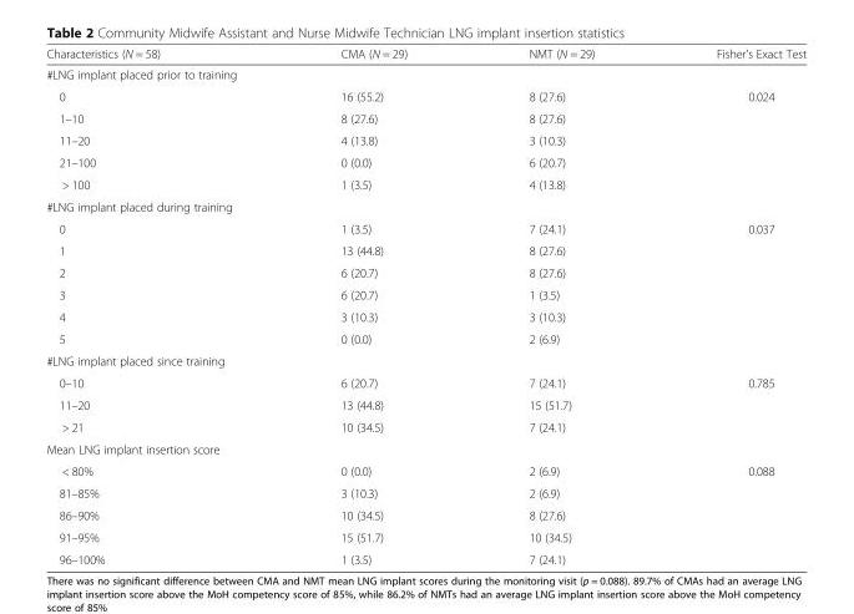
<table><thead><tr><td>Characteristics (N = 58)</td><td>CMA (N = 29)</td><td>NMT (N = 29)</td><td>Fisher’s Exact Test</td></tr></thead><tbody><tr><td colspan="4">#LNG implant placed prior to training</td></tr><tr><td>0</td><td>16 (55.2)</td><td>8 (27.6)</td><td rowspan="5">0.024</td></tr><tr><td>1–10</td><td>8 (27.6)</td><td>8 (27.6)</td></tr><tr><td>11–20</td><td>4 (13.8)</td><td>3 (10.3)</td></tr><tr><td>21–100</td><td>0 (0.0)</td><td>6 (20.7)</td></tr><tr><td>&gt; 100</td><td>1 (3.5)</td><td>4 (13.8)</td></tr><tr><td colspan="4">#LNG implant placed during training</td></tr><tr><td>0</td><td>1 (3.5)</td><td>7 (24.1)</td><td rowspan="6">0.037</td></tr><tr><td>1</td><td>13 (44.8)</td><td>8 (27.6)</td></tr><tr><td>2</td><td>6 (20.7)</td><td>8 (27.6)</td></tr><tr><td>3</td><td>6 (20.7)</td><td>1 (3.5)</td></tr><tr><td>4</td><td>3 (10.3)</td><td>3 (10.3)</td></tr><tr><td>5</td><td>0 (0.0)</td><td>2 (6.9)</td></tr><tr><td colspan="4">#LNG implant placed since training</td></tr><tr><td>0–10</td><td>6 (20.7)</td><td>7 (24.1)</td><td rowspan="3">0.785</td></tr><tr><td>11–20</td><td>13 (44.8)</td><td>15 (51.7)</td></tr><tr><td>&gt; 21</td><td>10 (34.5)</td><td>7 (24.1)</td></tr><tr><td colspan="4">Mean LNG implant insertion score</td></tr><tr><td>&lt; 80%</td><td>0 (0.0)</td><td>2 (6.9)</td><td rowspan="5">0.088</td></tr><tr><td>81–85%</td><td>3 (10.3)</td><td>2 (6.9)</td></tr><tr><td>86–90%</td><td>10 (34.5)</td><td>8 (27.6)</td></tr><tr><td>91–95%</td><td>15 (51.7)</td><td>10 (34.5)</td></tr><tr><td>96–100%</td><td>1 (3.5)</td><td>7 (24.1)</td></tr></tbody></table>